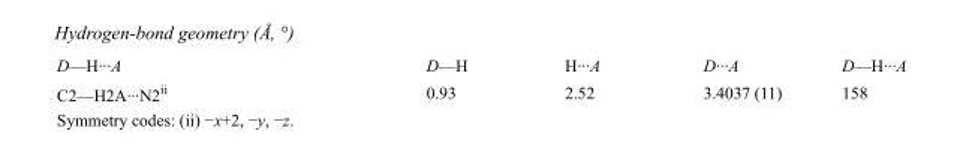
<table><tbody><tr><td>D—H···A</td><td>D—H</td><td>H···A</td><td>D···A</td><td>D—H···A</td></tr><tr><td>C2—H2A···N2<sup>ii</sup></td><td>0.93</td><td>2.52</td><td>3.4037 (11)</td><td>158</td></tr></tbody></table>